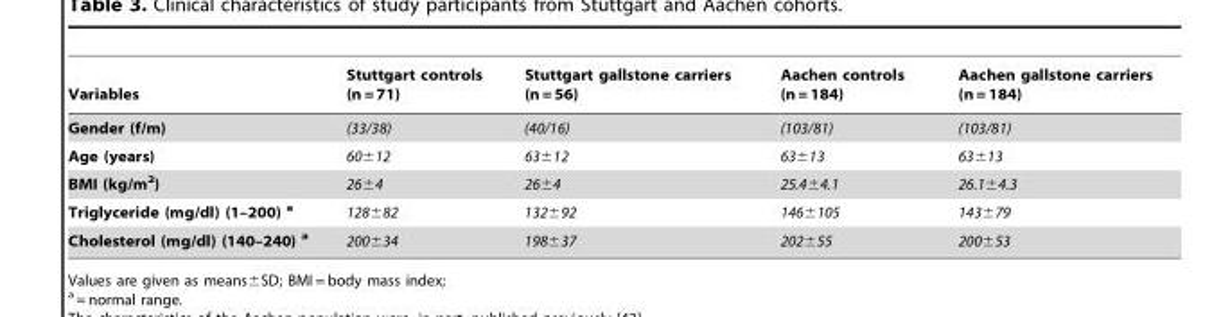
<table><thead><tr><td>Variables</td><td>Stuttgart controls (n = 71)</td><td>Stuttgart gallstone carriers (n = 56)</td><td>Aachen controls (n = 184)</td><td>Aachen gallstone carriers (n = 184)</td></tr></thead><tbody><tr><td>Gender (f/m)</td><td>(33/38)</td><td>(40/16)</td><td>(103/81)</td><td>(103/81)</td></tr><tr><td>Age (years)</td><td>60±12</td><td>63±12</td><td>63±13</td><td>63±13</td></tr><tr><td>BMI (kg/m<sup>2</sup>)</td><td>26±4</td><td>26±4</td><td>25.4±4.1</td><td>26.1±4.3</td></tr><tr><td>Triglyceride (mg/dl) (1–200) a</td><td>128±82</td><td>132±92</td><td>146±105</td><td>143±79</td></tr><tr><td>Cholesterol (mg/dl) (140–240) a</td><td>200±34</td><td>198±37</td><td>202±55</td><td>200±53</td></tr></tbody></table>